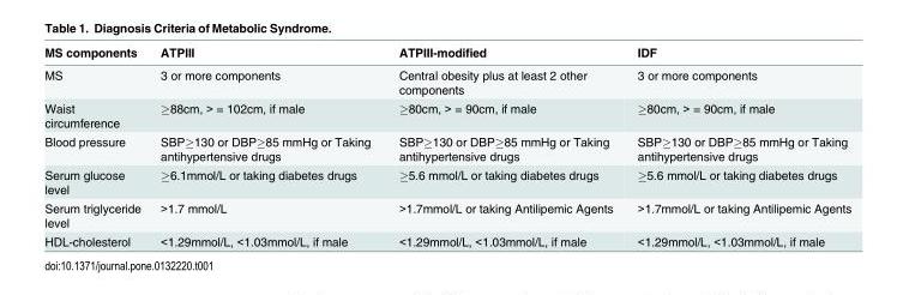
<table><thead><tr><td>MS components</td><td>ATPIII</td><td>ATPIII-modified</td><td>IDF</td></tr></thead><tbody><tr><td>MS</td><td>3 or more components</td><td>Central obesity plus at least 2 other components</td><td>3 or more components</td></tr><tr><td>Waist circumference</td><td>≥88cm, &gt; = 102cm, if male</td><td>≥80cm, &gt; = 90cm, if male</td><td>≥80cm, &gt; = 90cm, if male</td></tr><tr><td>Blood pressure</td><td>SBP≥130 or DBP≥85 mmHg or Taking antihypertensive drugs</td><td>SBP≥130 or DBP≥85 mmHg or Taking antihypertensive drugs</td><td>SBP≥130 or DBP≥85 mmHg or Taking antihypertensive drugs</td></tr><tr><td>Serum glucose level</td><td>≥6.1mmol/L or taking diabetes drugs</td><td>≥5.6 mmol/L or taking diabetes drugs</td><td>≥5.6 mmol/L or taking diabetes drugs</td></tr><tr><td>Serum triglyceride level</td><td>&gt;1.7 mmol/L</td><td>&gt;1.7mmol/L or taking Antilipemic Agents</td><td>&gt;1.7mmol/L or taking Antilipemic Agents</td></tr><tr><td>HDL-cholesterol</td><td>&lt;1.29mmol/L, &lt;1.03mmol/L, if male</td><td>&lt;1.29mmol/L, &lt;1.03mmol/L, if male</td><td>&lt;1.29mmol/L, &lt;1.03mmol/L, if male</td></tr></tbody></table>